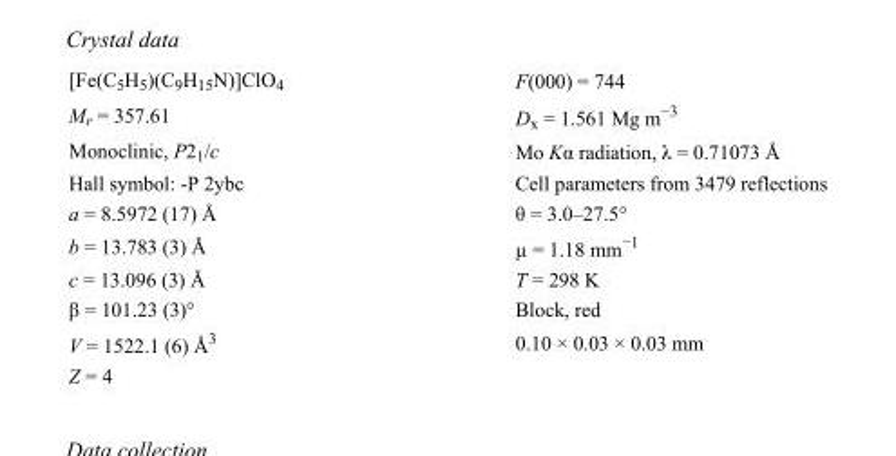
<table><tbody><tr><td>[Fe(C<sub>5</sub>H<sub>5</sub>)(C<sub>9</sub>H<sub>15</sub>N)]ClO<sub>4</sub></td><td>F(000) = 744</td></tr><tr><td>M<sub>r</sub> = 357.61</td><td>D<sub>x</sub> = 1.561 Mg m<sup>−3</sup></td></tr><tr><td>Monoclinic, P2<sub>1</sub>/c</td><td>Mo Kα radiation, λ = 0.71073 Å</td></tr><tr><td>Hall symbol: -P 2ybc</td><td>Cell parameters from 3479 reflections</td></tr><tr><td>a = 8.5972 (17) Å</td><td>θ = 3.0–27.5°</td></tr><tr><td>b = 13.783 (3) Å</td><td>µ = 1.18 mm<sup>−1</sup></td></tr><tr><td>c = 13.096 (3) Å</td><td>T = 298 K</td></tr><tr><td>β = 101.23 (3)°</td><td>Block, red</td></tr><tr><td>V = 1522.1 (6) Å<sup>3</sup></td><td>0.10 × 0.03 × 0.03 mm</td></tr><tr><td>Z = 4</td><td></td></tr></tbody></table>